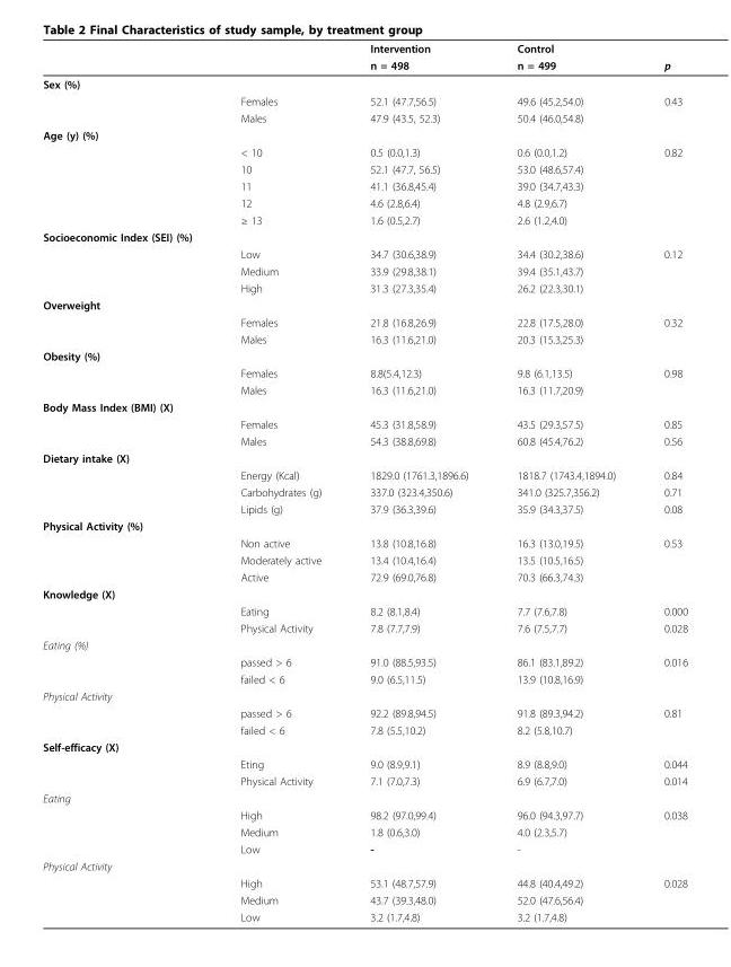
<table><thead><tr><td rowspan="2"></td><td rowspan="2"></td><td rowspan="2">Intervention n = 498</td><td rowspan="2">Control n = 499</td><td rowspan="2">p</td></tr><tr></tr></thead><tbody><tr><td colspan="5">Sex (%)</td></tr><tr><td></td><td>Females</td><td>52.1 (47.7,56.5)</td><td>49.6 (45.2,54.0)</td><td>0.43</td></tr><tr><td></td><td>Males</td><td>47.9 (43.5, 52.3)</td><td>50.4 (46.0,54.8)</td><td></td></tr><tr><td colspan="5">Age (y) (%)</td></tr><tr><td></td><td>&lt; 10</td><td>0.5 (0.0,1.3)</td><td>0.6 (0.0,1.2)</td><td>0.82</td></tr><tr><td></td><td>10</td><td>52.1 (47.7, 56.5)</td><td>53.0 (48.6,57.4)</td><td></td></tr><tr><td></td><td>11</td><td>41.1 (36.8,45.4)</td><td>39.0 (34.7,43.3)</td><td></td></tr><tr><td></td><td>12</td><td>4.6 (2.8,6.4)</td><td>4.8 (2.9,6.7)</td><td></td></tr><tr><td></td><td>≥ 13</td><td>1.6 (0.5,2.7)</td><td>2.6 (1.2,4.0)</td><td></td></tr><tr><td colspan="5">Socioeconomic Index (SEI) (%)</td></tr><tr><td></td><td>Low</td><td>34.7 (30.6,38.9)</td><td>34.4 (30.2,38.6)</td><td>0.12</td></tr><tr><td></td><td>Medium</td><td>33.9 (29.8,38.1)</td><td>39.4 (35.1,43.7)</td><td></td></tr><tr><td></td><td>High</td><td>31.3 (27.3,35.4)</td><td>26.2 (22.3,30.1)</td><td></td></tr><tr><td colspan="5">Overweight</td></tr><tr><td></td><td>Females</td><td>21.8 (16.8,26.9)</td><td>22.8 (17.5,28.0)</td><td>0.32</td></tr><tr><td></td><td>Males</td><td>16.3 (11.6,21.0)</td><td>20.3 (15.3,25.3)</td><td></td></tr><tr><td colspan="5">Obesity (%)</td></tr><tr><td></td><td>Females</td><td>8.8(5.4,12.3)</td><td>9.8 (6.1,13.5)</td><td>0.98</td></tr><tr><td></td><td>Males</td><td>16.3 (11.6,21.0)</td><td>16.3 (11.7,20.9)</td><td></td></tr><tr><td colspan="5">Body Mass Index (BMI) (X)</td></tr><tr><td></td><td>Females</td><td>45.3 (31.8,58.9)</td><td>43.5 (29.3,57.5)</td><td>0.85</td></tr><tr><td></td><td>Males</td><td>54.3 (38.8,69.8)</td><td>60.8 (45.4,76.2)</td><td>0.56</td></tr><tr><td colspan="5">Dietary intake (X)</td></tr><tr><td></td><td>Energy (Kcal)</td><td>1829.0 (1761.3,1896.6)</td><td>1818.7 (1743.4,1894.0)</td><td>0.84</td></tr><tr><td></td><td>Carbohydrates (g)</td><td>337.0 (323.4,350.6)</td><td>341.0 (325.7,356.2)</td><td>0.71</td></tr><tr><td></td><td>Lipids (g)</td><td>37.9 (36.3,39.6)</td><td>35.9 (34.3,37.5)</td><td>0.08</td></tr><tr><td colspan="5">Physical Activity (%)</td></tr><tr><td></td><td>Non active</td><td>13.8 (10.8,16.8)</td><td>16.3 (13.0,19.5)</td><td>0.53</td></tr><tr><td></td><td>Moderately active</td><td>13.4 (10.4,16.4)</td><td>13.5 (10.5,16.5)</td><td></td></tr><tr><td></td><td>Active</td><td>72.9 (69.0,76.8)</td><td>70.3 (66.3,74.3)</td><td></td></tr><tr><td colspan="5">Knowledge (X)</td></tr><tr><td></td><td>Eating</td><td>8.2 (8.1,8.4)</td><td>7.7 (7.6,7.8)</td><td>0.000</td></tr><tr><td></td><td>Physical Activity</td><td>7.8 (7.7,7.9)</td><td>7.6 (7.5,7.7)</td><td>0.028</td></tr><tr><td colspan="5">Eating (%)</td></tr><tr><td></td><td>passed &gt; 6</td><td>91.0 (88.5,93.5)</td><td>86.1 (83.1,89.2)</td><td>0.016</td></tr><tr><td></td><td>failed &lt; 6</td><td>9.0 (6.5,11.5)</td><td>13.9 (10.8,16.9)</td><td></td></tr><tr><td colspan="5">Physical Activity</td></tr><tr><td></td><td>passed &gt; 6</td><td>92.2 (89.8,94.5)</td><td>91.8 (89.3,94.2)</td><td>0.81</td></tr><tr><td></td><td>failed &lt; 6</td><td>7.8 (5.5,10.2)</td><td>8.2 (5.8,10.7)</td><td></td></tr><tr><td colspan="5">Self-efficacy (X)</td></tr><tr><td></td><td>Eting</td><td>9.0 (8.9,9.1)</td><td>8.9 (8.8,9.0)</td><td>0.044</td></tr><tr><td></td><td>Physical Activity</td><td>7.1 (7.0,7.3)</td><td>6.9 (6.7,7.0)</td><td>0.014</td></tr><tr><td colspan="5">Eating</td></tr><tr><td></td><td>High</td><td>98.2 (97.0,99.4)</td><td>96.0 (94.3,97.7)</td><td>0.038</td></tr><tr><td></td><td>Medium</td><td>1.8 (0.6,3.0)</td><td>4.0 (2.3,5.7)</td><td></td></tr><tr><td></td><td>Low</td><td>-</td><td>-</td><td></td></tr><tr><td colspan="5">Physical Activity</td></tr><tr><td></td><td>High</td><td>53.1 (48.7,57.9)</td><td>44.8 (40.4,49.2)</td><td>0.028</td></tr><tr><td></td><td>Medium</td><td>43.7 (39.3,48.0)</td><td>52.0 (47.6,56.4)</td><td></td></tr><tr><td></td><td>Low</td><td>3.2 (1.7,4.8)</td><td>3.2 (1.7,4.8)</td><td></td></tr></tbody></table>